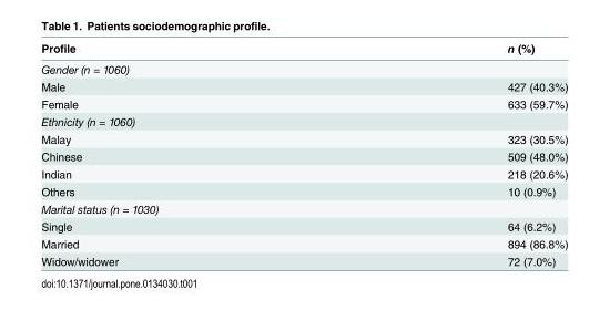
<table><thead><tr><td>Profile</td><td>n (%)</td></tr></thead><tbody><tr><td colspan="2">Gender (n = 1060)</td></tr><tr><td>Male</td><td>427 (40.3%)</td></tr><tr><td>Female</td><td>633 (59.7%)</td></tr><tr><td colspan="2">Ethnicity (n = 1060)</td></tr><tr><td>Malay</td><td>323 (30.5%)</td></tr><tr><td>Chinese</td><td>509 (48.0%)</td></tr><tr><td>Indian</td><td>218 (20.6%)</td></tr><tr><td>Others</td><td>10 (0.9%)</td></tr><tr><td colspan="2">Marital status (n = 1030)</td></tr><tr><td>Single</td><td>64 (6.2%)</td></tr><tr><td>Married</td><td>894 (86.8%)</td></tr><tr><td>Widow/widower</td><td>72 (7.0%)</td></tr></tbody></table>